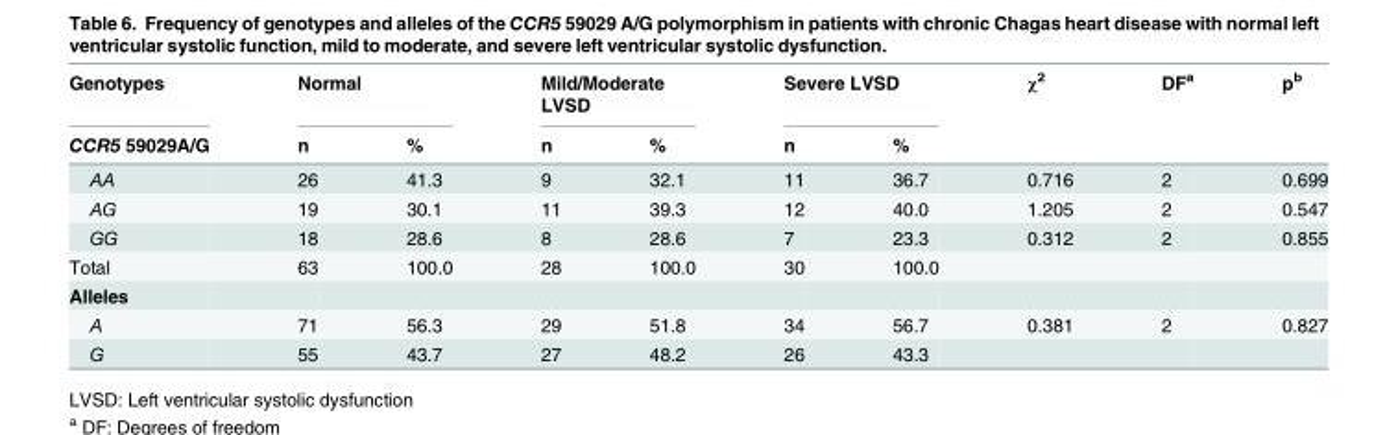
<table><thead><tr><td rowspan="2">Genotypes CCR5 59029A/G</td><td colspan="2">Normal</td><td colspan="2">Mild/Moderate LVSD</td><td colspan="2">Severe LVSD</td><td rowspan="2">χ<sup>2</sup></td><td rowspan="2">DF<sup>a</sup></td><td rowspan="2">p<sup>b</sup></td></tr><tr><td>n</td><td>%</td><td>n</td><td>%</td><td>n</td><td>%</td></tr></thead><tbody><tr><td>AA</td><td>26</td><td>41.3</td><td>9</td><td>32.1</td><td>11</td><td>36.7</td><td>0.716</td><td>2</td><td>0.699</td></tr><tr><td>AG</td><td>19</td><td>30.1</td><td>11</td><td>39.3</td><td>12</td><td>40.0</td><td>1.205</td><td>2</td><td>0.547</td></tr><tr><td>GG</td><td>18</td><td>28.6</td><td>8</td><td>28.6</td><td>7</td><td>23.3</td><td>0.312</td><td>2</td><td>0.855</td></tr><tr><td>Total</td><td>63</td><td>100.0</td><td>28</td><td>100.0</td><td>30</td><td>100.0</td><td></td><td></td><td></td></tr><tr><td colspan="10">Alleles</td></tr><tr><td>A</td><td>71</td><td>56.3</td><td>29</td><td>51.8</td><td>34</td><td>56.7</td><td>0.381</td><td>2</td><td>0.827</td></tr><tr><td>G</td><td>55</td><td>43.7</td><td>27</td><td>48.2</td><td>26</td><td>43.3</td><td></td><td></td><td></td></tr></tbody></table>